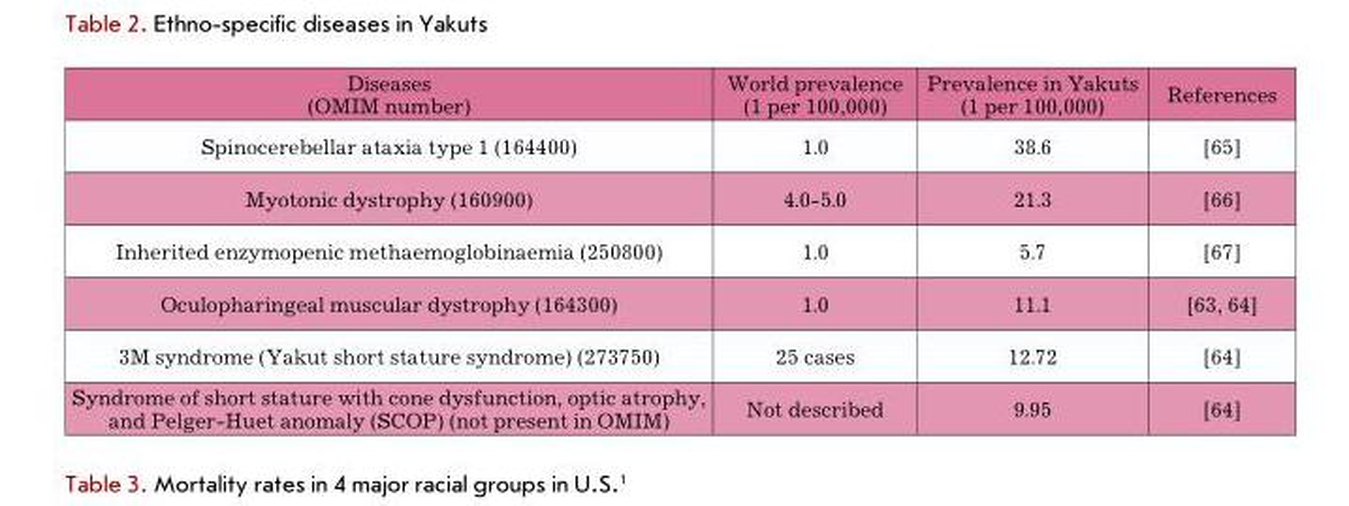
<table><thead><tr><td>Diseases (OMIM number)</td><td>World prevalence (1 per 100,000)</td><td>Prevalence in Yakuts (1 per 100,000)</td><td>References</td></tr></thead><tbody><tr><td>Spinocerebellar ataxia type 1 (164400)</td><td>1.0</td><td>38.6</td><td>[65]</td></tr><tr><td>Myotonic dystrophy (160900)</td><td>4.0-5.0</td><td>21.3</td><td>[66]</td></tr><tr><td>Inherited enzymopenic methaemoglobinaemia (250800)</td><td>1.0</td><td>5.7</td><td>[67]</td></tr><tr><td>Oculopharingeal muscular dystrophy (164300)</td><td>1.0</td><td>11.1</td><td>[63, 64]</td></tr><tr><td>3M syndrome (Yakut short stature syndrome) (273750)</td><td>25 cases</td><td>12.72</td><td>[64]</td></tr><tr><td>Syndrome of short stature with cone dysfunction, optic atrophy, and Pelger-Huet anomaly (SCOP) (not present in OMIM)</td><td>Not described</td><td>9.95</td><td>[64]</td></tr></tbody></table>